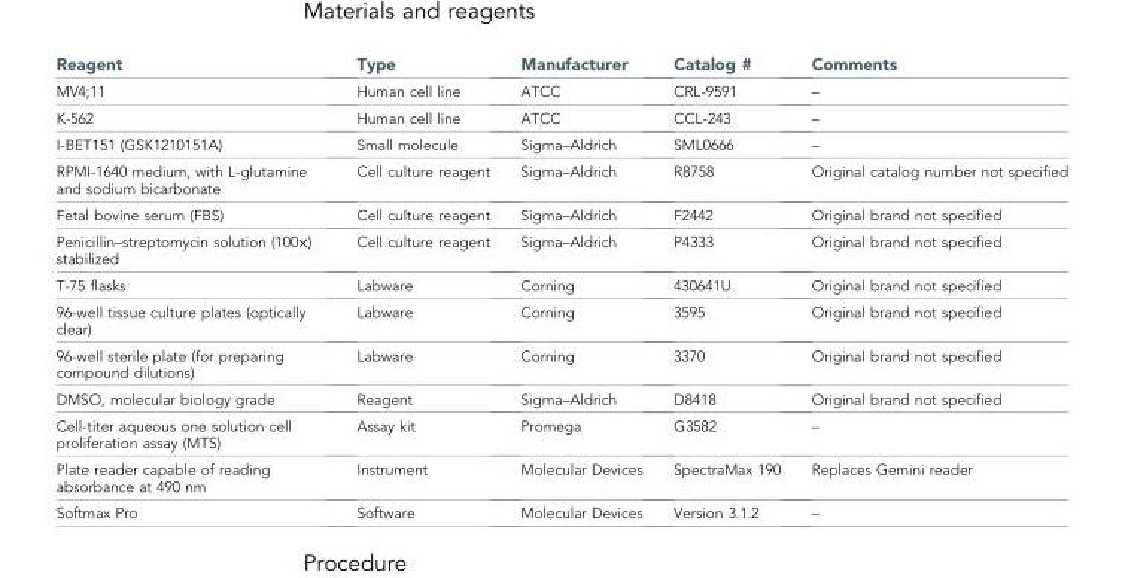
<table><thead><tr><td>Reagent</td><td>Type</td><td>Manufacturer</td><td>Catalog #</td><td>Comments</td></tr></thead><tbody><tr><td>MV4;11</td><td>Human cell line</td><td>ATCC</td><td>CRL-9591</td><td>–</td></tr><tr><td>K-562</td><td>Human cell line</td><td>ATCC</td><td>CCL-243</td><td>–</td></tr><tr><td>I-BET151 (GSK1210151A)</td><td>Small molecule</td><td>Sigma–Aldrich</td><td>SML0666</td><td>–</td></tr><tr><td>RPMI-1640 medium, with L-glutamine and sodium bicarbonate</td><td>Cell culture reagent</td><td>Sigma–Aldrich</td><td>R8758</td><td>Original catalog number not specified</td></tr><tr><td>Fetal bovine serum (FBS)</td><td>Cell culture reagent</td><td>Sigma–Aldrich</td><td>F2442</td><td>Original brand not specified</td></tr><tr><td>Penicillin–streptomycin solution (100×) stabilized</td><td>Cell culture reagent</td><td>Sigma–Aldrich</td><td>P4333</td><td>Original brand not specified</td></tr><tr><td>T-75 flasks</td><td>Labware</td><td>Corning</td><td>430641U</td><td>Original brand not specified</td></tr><tr><td>96-well tissue culture plates (optically clear)</td><td>Labware</td><td>Corning</td><td>3595</td><td>Original brand not specified</td></tr><tr><td>96-well sterile plate (for preparing compound dilutions)</td><td>Labware</td><td>Corning</td><td>3370</td><td>Original brand not specified</td></tr><tr><td>DMSO, molecular biology grade</td><td>Reagent</td><td>Sigma–Aldrich</td><td>D8418</td><td>Original brand not specified</td></tr><tr><td>Cell-titer aqueous one solution cell proliferation assay (MTS)</td><td>Assay kit</td><td>Promega</td><td>G3582</td><td>–</td></tr><tr><td>Plate reader capable of reading absorbance at 490 nm</td><td>Instrument</td><td>Molecular Devices</td><td>SpectraMax 190</td><td>Replaces Gemini reader</td></tr><tr><td>Softmax Pro</td><td>Software</td><td>Molecular Devices</td><td>Version 3.1.2</td><td>–</td></tr></tbody></table>